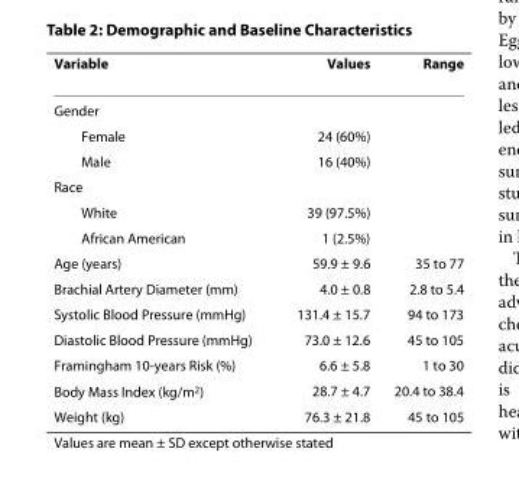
<table><thead><tr><td>Variable</td><td>Values</td><td>Range</td></tr></thead><tbody><tr><td colspan="3">Gender</td></tr><tr><td>Female</td><td>24 (60%)</td><td></td></tr><tr><td>Male</td><td>16 (40%)</td><td></td></tr><tr><td colspan="3">Race</td></tr><tr><td>White</td><td>39 (97.5%)</td><td></td></tr><tr><td>African American</td><td>1 (2.5%)</td><td></td></tr><tr><td>Age (years)</td><td>59.9 ± 9.6</td><td>35 to 77</td></tr><tr><td>Brachial Artery Diameter (mm)</td><td>4.0 ± 0.8</td><td>2.8 to 5.4</td></tr><tr><td>Systolic Blood Pressure (mmHg)</td><td>131.4 ± 15.7</td><td>94 to 173</td></tr><tr><td>Diastolic Blood Pressure (mmHg)</td><td>73.0 ± 12.6</td><td>45 to 105</td></tr><tr><td>Framingham 10-years Risk (%)</td><td>6.6 ± 5.8</td><td>1 to 30</td></tr><tr><td>Body Mass Index (kg/m<sup>2</sup>)</td><td>28.7 ± 4.7</td><td>20.4 to 38.4</td></tr><tr><td>Weight (kg)</td><td>76.3 ± 21.8</td><td>45 to 105</td></tr></tbody></table>